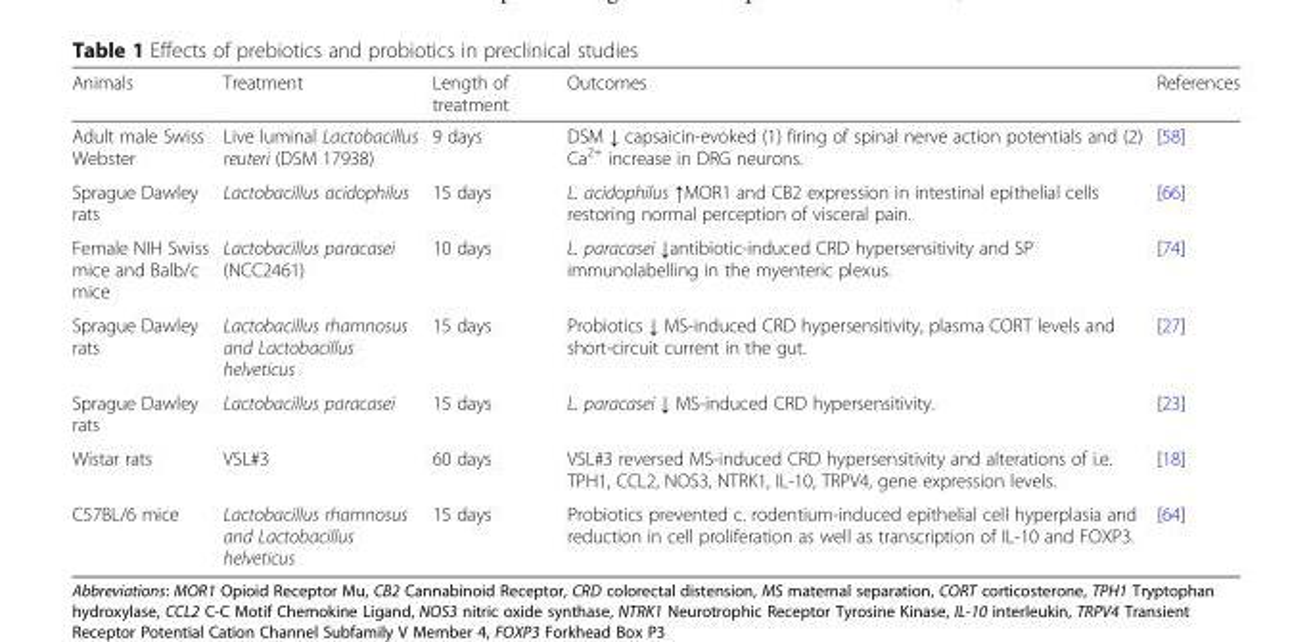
<table><thead><tr><td>Animals</td><td>Treatment</td><td>Length of treatment</td><td>Outcomes</td><td>References</td></tr></thead><tbody><tr><td>Adult male Swiss Webster</td><td>Live luminal Lactobacillus reuteri (DSM 17938)</td><td>9 days</td><td>DSM ↓ capsaicin-evoked (1) firing of spinal nerve action potentials and (2) Ca<sup>2+</sup> increase in DRG neurons.</td><td>[58]</td></tr><tr><td>Sprague Dawley rats</td><td>Lactobacillus acidophilus</td><td>15 days</td><td>L. acidophilus ↑MOR1 and CB2 expression in intestinal epithelial cells restoring normal perception of visceral pain.</td><td>[66]</td></tr><tr><td>Female NIH Swiss mice and Balb/c mice</td><td>Lactobacillus paracasei (NCC2461)</td><td>10 days</td><td>L. paracasei ↓antibiotic-induced CRD hypersensitivity and SP immunolabelling in the myenteric plexus.</td><td>[74]</td></tr><tr><td>Sprague Dawley rats</td><td>Lactobacillus rhamnosus and Lactobacillus helveticus</td><td>15 days</td><td>Probiotics ↓ MS-induced CRD hypersensitivity, plasma CORT levels and short-circuit current in the gut.</td><td>[27]</td></tr><tr><td>Sprague Dawley rats</td><td>Lactobacillus paracasei</td><td>15 days</td><td>L. paracasei ↓ MS-induced CRD hypersensitivity.</td><td>[23]</td></tr><tr><td>Wistar rats</td><td>VSL#3</td><td>60 days</td><td>VSL#3 reversed MS-induced CRD hypersensitivity and alterations of i.e. TPH1, CCL2, NOS3, NTRK1, IL-10, TRPV4, gene expression levels.</td><td>[18]</td></tr><tr><td>C57BL/6 mice</td><td>Lactobacillus rhamnosus and Lactobacillus helveticus</td><td>15 days</td><td>Probiotics prevented c. rodentium-induced epithelial cell hyperplasia and reduction in cell proliferation as well as transcription of IL-10 and FOXP3.</td><td>[64]</td></tr></tbody></table>